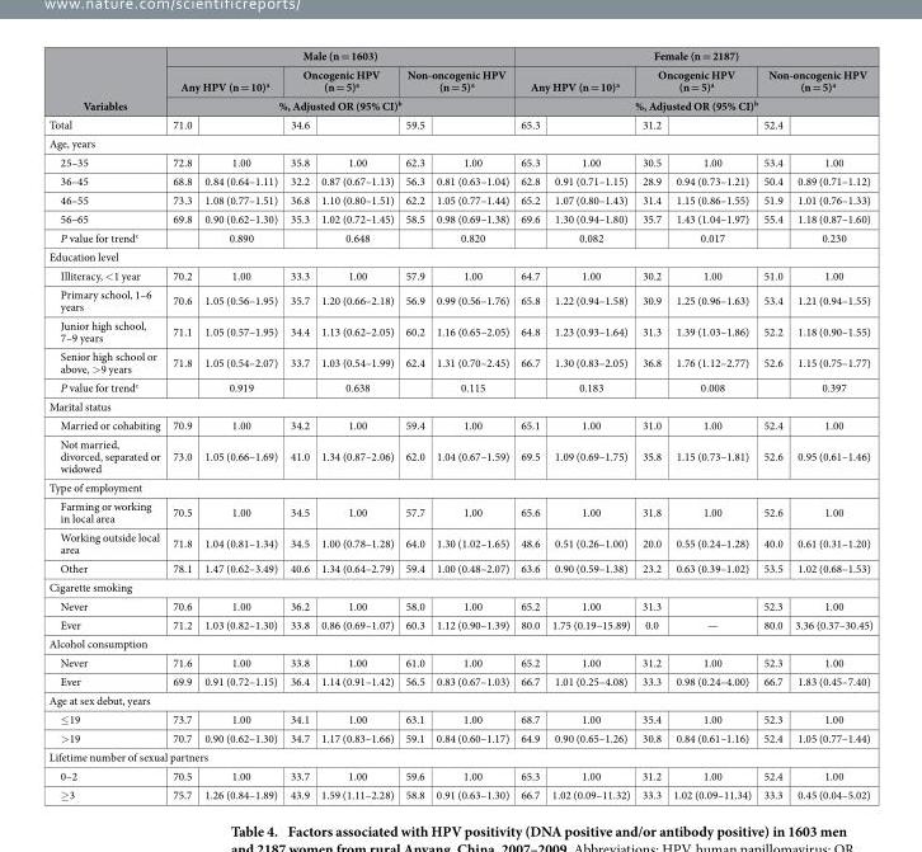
<table><thead><tr><td rowspan="4">Variables Total</td><td colspan="6">Male (n = 1603)</td><td colspan="6">Female (n = 2187)</td></tr><tr><td colspan="2">Any HPV (n = 10)<sup>a</sup></td><td colspan="2">Oncogenic HPV (n = 5)<sup>a</sup></td><td colspan="2">Non-oncogenic HPV (n = 5)<sup>a</sup></td><td colspan="2">Any HPV (n = 10)<sup>a</sup></td><td colspan="2">Oncogenic HPV (n = 5)<sup>a</sup></td><td colspan="2">Non-oncogenic HPV (n = 5)<sup>a</sup></td></tr><tr><td colspan="6">%, Adjusted OR (95% CI)<sup>b</sup></td><td colspan="6">%, Adjusted OR (95% CI)<sup>b</sup></td></tr><tr><td>71.0</td><td></td><td>34.6</td><td></td><td>59.5</td><td></td><td>65.3</td><td></td><td>31.2</td><td></td><td>52.4</td><td></td></tr></thead><tbody><tr><td colspan="13">Age, years</td></tr><tr><td>25–35</td><td>72.8</td><td>1.00</td><td>35.8</td><td>1.00</td><td>62.3</td><td>1.00</td><td>65.3</td><td>1.00</td><td>30.5</td><td>1.00</td><td>53.4</td><td>1.00</td></tr><tr><td>36–45</td><td>68.8</td><td>0.84 (0.64–1.11)</td><td>32.2</td><td>0.87 (0.67–1.13)</td><td>56.3</td><td>0.81 (0.63–1.04)</td><td>62.8</td><td>0.91 (0.71–1.15)</td><td>28.9</td><td>0.94 (0.73–1.21)</td><td>50.4</td><td>0.89 (0.71–1.12)</td></tr><tr><td>46–55</td><td>73.3</td><td>1.08 (0.77–1.51)</td><td>36.8</td><td>1.10 (0.80–1.51)</td><td>62.2</td><td>1.05 (0.77–1.44)</td><td>65.2</td><td>1.07 (0.80–1.43)</td><td>31.4</td><td>1.15 (0.86–1.55)</td><td>51.9</td><td>1.01 (0.76–1.33)</td></tr><tr><td>56–65</td><td>69.8</td><td>0.90 (0.62–1.30)</td><td>35.3</td><td>1.02 (0.72–1.45)</td><td>58.5</td><td>0.98 (0.69–1.38)</td><td>69.6</td><td>1.30 (0.94–1.80)</td><td>35.7</td><td>1.43 (1.04–1.97)</td><td>55.4</td><td>1.18 (0.87–1.60)</td></tr><tr><td>P value for trend<sup>c</sup></td><td></td><td>0.890</td><td></td><td>0.648</td><td></td><td>0.820</td><td></td><td>0.082</td><td></td><td>0.017</td><td></td><td>0.230</td></tr><tr><td colspan="13">Education level</td></tr><tr><td>Illiteracy, &lt; 1 year</td><td>70.2</td><td>1.00</td><td>33.3</td><td>1.00</td><td>57.9</td><td>1.00</td><td>64.7</td><td>1.00</td><td>30.2</td><td>1.00</td><td>51.0</td><td>1.00</td></tr><tr><td>Primary school, 1–6 years</td><td>70.6</td><td>1.05 (0.56–1.95)</td><td>35.7</td><td>1.20 (0.66–2.18)</td><td>56.9</td><td>0.99 (0.56–1.76)</td><td>65.8</td><td>1.22 (0.94–1.58)</td><td>30.9</td><td>1.25 (0.96–1.63)</td><td>53.4</td><td>1.21 (0.94–1.55)</td></tr><tr><td>Junior high school, 7–9 years</td><td>71.1</td><td>1.05 (0.57–1.95)</td><td>34.4</td><td>1.13 (0.62–2.05)</td><td>60.2</td><td>1.16 (0.65–2.05)</td><td>64.8</td><td>1.23 (0.93–1.64)</td><td>31.3</td><td>1.39 (1.03–1.86)</td><td>52.2</td><td>1.18 (0.90–1.55)</td></tr><tr><td>Senior high school or above, &gt; 9 years</td><td>71.8</td><td>1.05 (0.54–2.07)</td><td>33.7</td><td>1.03 (0.54–1.99)</td><td>62.4</td><td>1.31 (0.70–2.45)</td><td>66.7</td><td>1.30 (0.83–2.05)</td><td>36.8</td><td>1.76 (1.12–2.77)</td><td>52.6</td><td>1.15 (0.75–1.77)</td></tr><tr><td>P value for trend<sup>c</sup></td><td></td><td>0.919</td><td></td><td>0.638</td><td></td><td>0.115</td><td></td><td>0.183</td><td></td><td>0.008</td><td></td><td>0.397</td></tr><tr><td colspan="13">Marital status</td></tr><tr><td>Married or cohabiting</td><td>70.9</td><td>1.00</td><td>34.2</td><td>1.00</td><td>59.4</td><td>1.00</td><td>65.1</td><td>1.00</td><td>31.0</td><td>1.00</td><td>52.4</td><td>1.00</td></tr><tr><td>Not married, divorced, separated or widowed</td><td>73.0</td><td>1.05 (0.66–1.69)</td><td>41.0</td><td>1.34 (0.87–2.06)</td><td>62.0</td><td>1.04 (0.67–1.59)</td><td>69.5</td><td>1.09 (0.69–1.75)</td><td>35.8</td><td>1.15 (0.73–1.81)</td><td>52.6</td><td>0.95 (0.61–1.46)</td></tr><tr><td colspan="13">Type of employment</td></tr><tr><td>Farming or working in local area</td><td>70.5</td><td>1.00</td><td>34.5</td><td>1.00</td><td>57.7</td><td>1.00</td><td>65.6</td><td>1.00</td><td>31.8</td><td>1.00</td><td>52.6</td><td>1.00</td></tr><tr><td>Working outside local area</td><td>71.8</td><td>1.04 (0.81–1.34)</td><td>34.5</td><td>1.00 (0.78–1.28)</td><td>64.0</td><td>1.30 (1.02–1.65)</td><td>48.6</td><td>0.51 (0.26–1.00)</td><td>20.0</td><td>0.55 (0.24–1.28)</td><td>40.0</td><td>0.61 (0.31–1.20)</td></tr><tr><td>Other</td><td>78.1</td><td>1.47 (0.62–3.49)</td><td>40.6</td><td>1.34 (0.64–2.79)</td><td>59.4</td><td>1.00 (0.48–2.07)</td><td>63.6</td><td>0.90 (0.59–1.38)</td><td>23.2</td><td>0.63 (0.39–1.02)</td><td>53.5</td><td>1.02 (0.68–1.53)</td></tr><tr><td colspan="13">Cigarette smoking</td></tr><tr><td>Never</td><td>70.6</td><td>1.00</td><td>36.2</td><td>1.00</td><td>58.0</td><td>1.00</td><td>65.2</td><td>1.00</td><td>31.3</td><td></td><td>52.3</td><td>1.00</td></tr><tr><td>Ever</td><td>71.2</td><td>1.03 (0.82–1.30)</td><td>33.8</td><td>0.86 (0.69–1.07)</td><td>60.3</td><td>1.12 (0.90–1.39)</td><td>80.0</td><td>1.75 (0.19–15.89)</td><td>0.0</td><td>—</td><td>80.0</td><td>3.36 (0.37–30.45)</td></tr><tr><td colspan="13">Alcohol consumption</td></tr><tr><td>Never</td><td>71.6</td><td>1.00</td><td>33.8</td><td>1.00</td><td>61.0</td><td>1.00</td><td>65.2</td><td>1.00</td><td>31.2</td><td>1.00</td><td>52.3</td><td>1.00</td></tr><tr><td>Ever</td><td>69.9</td><td>0.91 (0.72–1.15)</td><td>36.4</td><td>1.14 (0.91–1.42)</td><td>56.5</td><td>0.83 (0.67–1.03)</td><td>66.7</td><td>1.01 (0.25–4.08)</td><td>33.3</td><td>0.98 (0.24–4.00)</td><td>66.7</td><td>1.83 (0.45–7.40)</td></tr><tr><td colspan="13">Age at sex debut, years</td></tr><tr><td>≤19</td><td>73.7</td><td>1.00</td><td>34.1</td><td>1.00</td><td>63.1</td><td>1.00</td><td>68.7</td><td>1.00</td><td>35.4</td><td>1.00</td><td>52.3</td><td>1.00</td></tr><tr><td>&gt;19</td><td>70.7</td><td>0.90 (0.62–1.30)</td><td>34.7</td><td>1.17 (0.83–1.66)</td><td>59.1</td><td>0.84 (0.60–1.17)</td><td>64.9</td><td>0.90 (0.65–1.26)</td><td>30.8</td><td>0.84 (0.61–1.16)</td><td>52.4</td><td>1.05 (0.77–1.44)</td></tr><tr><td colspan="13">Lifetime number of sexual partners</td></tr><tr><td>0–2</td><td>70.5</td><td>1.00</td><td>33.7</td><td>1.00</td><td>59.6</td><td>1.00</td><td>65.3</td><td>1.00</td><td>31.2</td><td>1.00</td><td>52.4</td><td>1.00</td></tr><tr><td>≥3</td><td>75.7</td><td>1.26 (0.84–1.89)</td><td>43.9</td><td>1.59 (1.11–2.28)</td><td>58.8</td><td>0.91 (0.63–1.30)</td><td>66.7</td><td>1.02 (0.09–11.32)</td><td>33.3</td><td>1.02 (0.09–11.34)</td><td>33.3</td><td>0.45 (0.04–5.02)</td></tr></tbody></table>